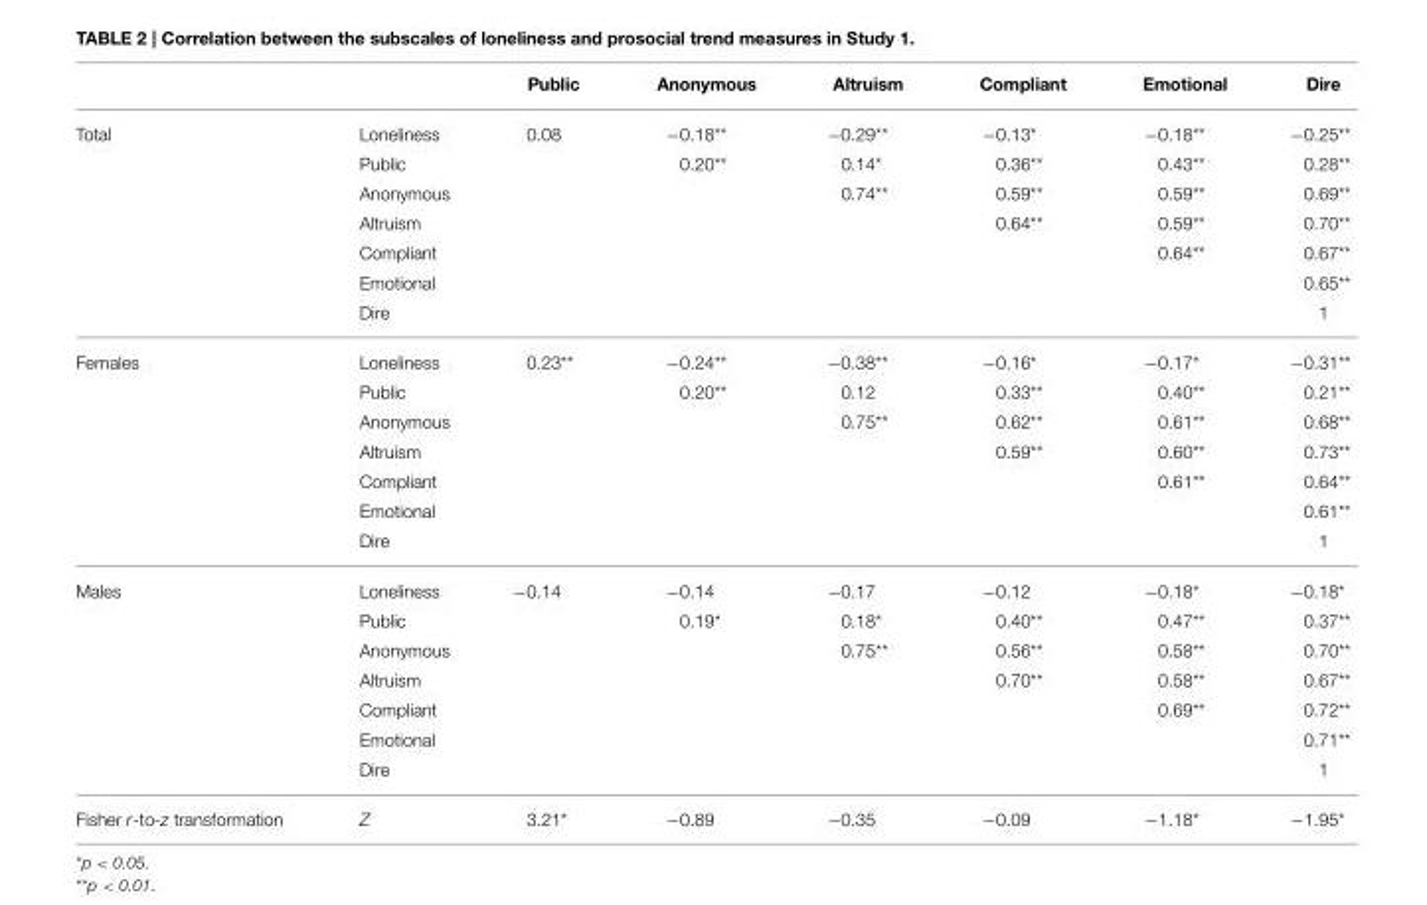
<table><thead><tr><td></td><td></td><td>Public</td><td>Anonymous</td><td>Altruism</td><td>Compliant</td><td>Emotional</td><td>Dire</td></tr></thead><tbody><tr><td rowspan="7">Total</td><td>Loneliness</td><td>0.08</td><td>−0.18**</td><td>−0.29**</td><td>−0.13*</td><td>−0.18**</td><td>−0.25**</td></tr><tr><td>Public</td><td></td><td>0.20**</td><td>0.14*</td><td>0.36**</td><td>0.43**</td><td>0.28**</td></tr><tr><td>Anonymous</td><td></td><td></td><td>0.74**</td><td>0.59**</td><td>0.59**</td><td>0.69**</td></tr><tr><td>Altruism</td><td></td><td></td><td></td><td>0.64**</td><td>0.59**</td><td>0.70**</td></tr><tr><td>Compliant</td><td></td><td></td><td></td><td></td><td>0.64**</td><td>0.67**</td></tr><tr><td>Emotional</td><td></td><td></td><td></td><td></td><td></td><td>0.65**</td></tr><tr><td>Dire</td><td></td><td></td><td></td><td></td><td></td><td>1</td></tr><tr><td rowspan="7">Females</td><td>Loneliness</td><td>0.23**</td><td>−0.24**</td><td>−0.38**</td><td>−0.16*</td><td>−0.17*</td><td>−0.31**</td></tr><tr><td>Public</td><td></td><td>0.20**</td><td>0.12</td><td>0.33**</td><td>0.40**</td><td>0.21**</td></tr><tr><td>Anonymous</td><td></td><td></td><td>0.75**</td><td>0.62**</td><td>0.61**</td><td>0.68**</td></tr><tr><td>Altruism</td><td></td><td></td><td></td><td>0.59**</td><td>0.60**</td><td>0.73**</td></tr><tr><td>Compliant</td><td></td><td></td><td></td><td></td><td>0.61**</td><td>0.64**</td></tr><tr><td>Emotional</td><td></td><td></td><td></td><td></td><td></td><td>0.61**</td></tr><tr><td>Dire</td><td></td><td></td><td></td><td></td><td></td><td>1</td></tr><tr><td rowspan="7">Males</td><td>Loneliness</td><td>−0.14</td><td>−0.14</td><td>−0.17</td><td>−0.12</td><td>−0.18*</td><td>−0.18*</td></tr><tr><td>Public</td><td></td><td>0.19*</td><td>0.18*</td><td>0.40**</td><td>0.47**</td><td>0.37**</td></tr><tr><td>Anonymous</td><td></td><td></td><td>0.75**</td><td>0.56**</td><td>0.58**</td><td>0.70**</td></tr><tr><td>Altruism</td><td></td><td></td><td></td><td>0.70**</td><td>0.58**</td><td>0.67**</td></tr><tr><td>Compliant</td><td></td><td></td><td></td><td></td><td>0.69**</td><td>0.72**</td></tr><tr><td>Emotional</td><td></td><td></td><td></td><td></td><td></td><td>0.71**</td></tr><tr><td>Dire</td><td></td><td></td><td></td><td></td><td></td><td>1</td></tr><tr><td>Fisher r-to-z transformation</td><td>Z</td><td>3.21*</td><td>−0.89</td><td>−0.35</td><td>−0.09</td><td>−1.18*</td><td>−1.95*</td></tr></tbody></table>